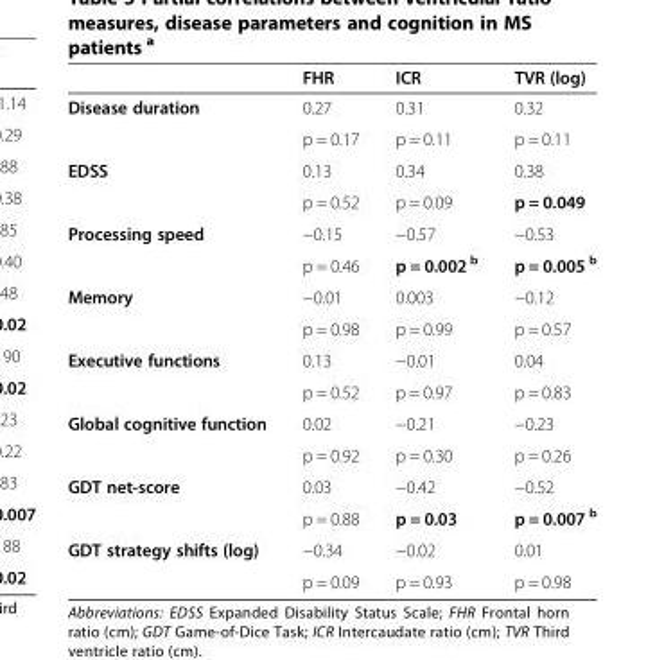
<table><thead><tr><td></td><td>FHR</td><td>ICR</td><td>TVR (log)</td></tr></thead><tbody><tr><td rowspan="2">Disease duration</td><td>0.27</td><td>0.31</td><td>0.32</td></tr><tr><td>p = 0.17</td><td>p = 0.11</td><td>p = 0.11</td></tr><tr><td rowspan="2">EDSS</td><td>0.13</td><td>0.34</td><td>0.38</td></tr><tr><td>p = 0.52</td><td>p = 0.09</td><td>p = 0.049</td></tr><tr><td rowspan="2">Processing speed</td><td>−0.15</td><td>−0.57</td><td>−0.53</td></tr><tr><td>p = 0.46</td><td>p = 0.002 <sup>b</sup></td><td>p = 0.005 <sup>b</sup></td></tr><tr><td rowspan="2">Memory</td><td>−0.01</td><td>0.003</td><td>−0.12</td></tr><tr><td>p = 0.98</td><td>p = 0.99</td><td>p = 0.57</td></tr><tr><td rowspan="2">Executive functions</td><td>0.13</td><td>−0.01</td><td>0.04</td></tr><tr><td>p = 0.52</td><td>p = 0.97</td><td>p = 0.83</td></tr><tr><td rowspan="2">Global cognitive function</td><td>0.02</td><td>−0.21</td><td>−0.23</td></tr><tr><td>p = 0.92</td><td>p = 0.30</td><td>p = 0.26</td></tr><tr><td rowspan="2">GDT net-score</td><td>0.03</td><td>−0.42</td><td>−0.52</td></tr><tr><td>p = 0.88</td><td>p = 0.03</td><td>p = 0.007 <sup>b</sup></td></tr><tr><td rowspan="2">GDT strategy shifts (log)</td><td>−0.34</td><td>−0.02</td><td>0.01</td></tr><tr><td>p = 0.09</td><td>p = 0.93</td><td>p = 0.98</td></tr></tbody></table>